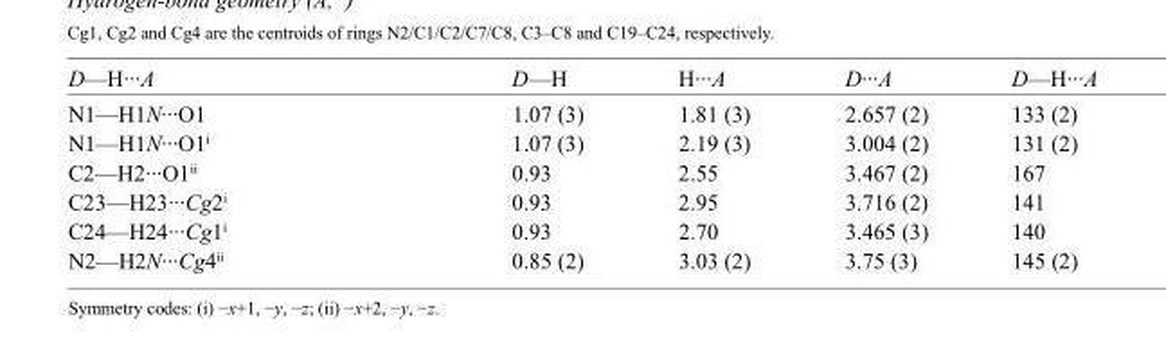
<table><tbody><tr><td>D—H···A</td><td>D—H</td><td>H···A</td><td>D···A</td><td>D—H···A</td></tr><tr><td>N1—H1N···O1</td><td>1.07 (3)</td><td>1.81 (3)</td><td>2.657 (2)</td><td>133 (2)</td></tr><tr><td>N1—H1N···O1<sup>i</sup></td><td>1.07 (3)</td><td>2.19 (3)</td><td>3.004 (2)</td><td>131 (2)</td></tr><tr><td>C2—H2···O1<sup>ii</sup></td><td>0.93</td><td>2.55</td><td>3.467 (2)</td><td>167</td></tr><tr><td>C23—H23···Cg2<sup>i</sup></td><td>0.93</td><td>2.95</td><td>3.716 (2)</td><td>141</td></tr><tr><td>C24—H24···Cg1<sup>i</sup></td><td>0.93</td><td>2.70</td><td>3.465 (3)</td><td>140</td></tr><tr><td>N2—H2N···Cg4<sup>ii</sup></td><td>0.85 (2)</td><td>3.03 (2)</td><td>3.75 (3)</td><td>145 (2)</td></tr></tbody></table>